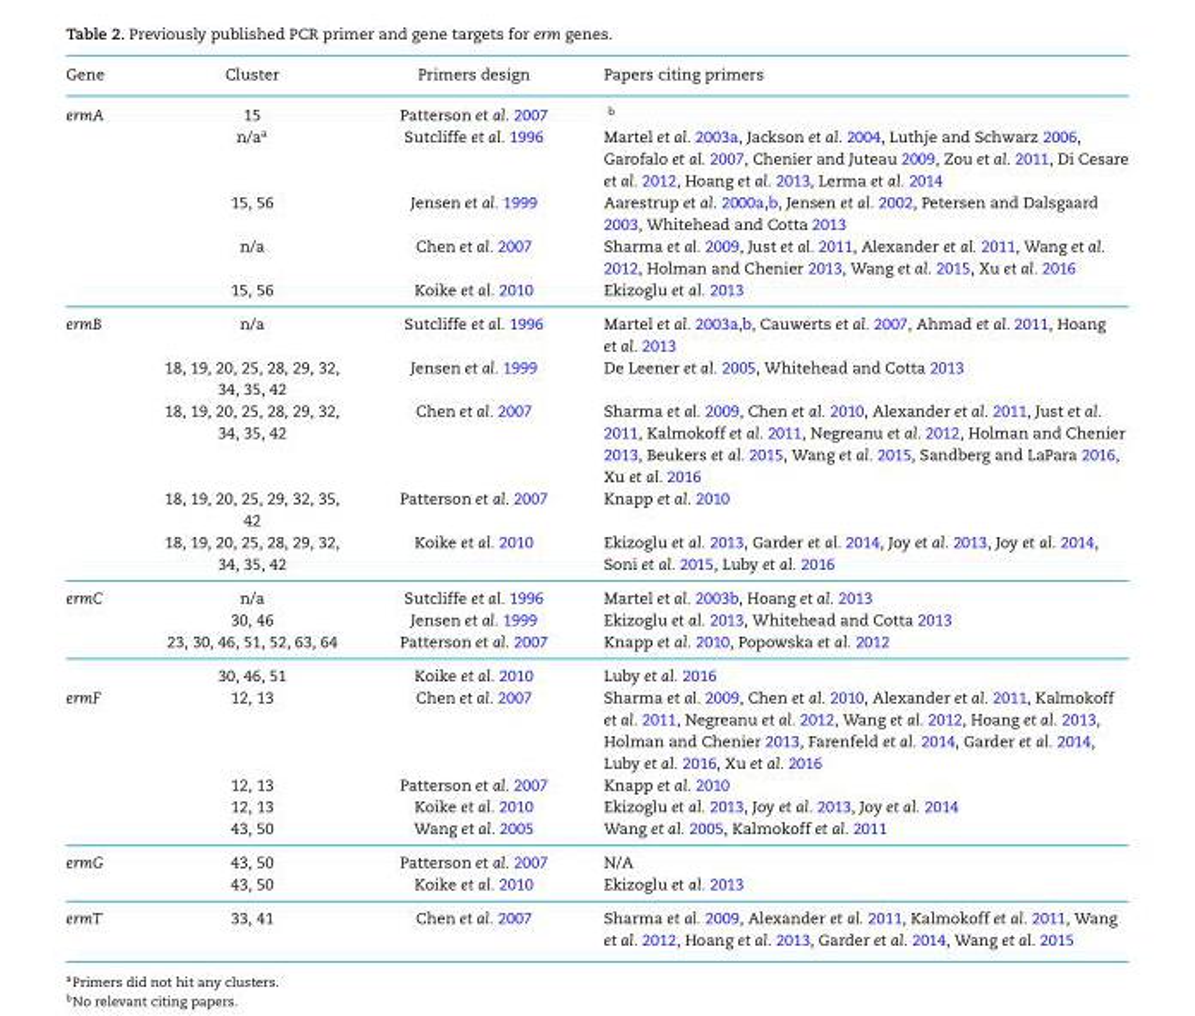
<table><thead><tr><td>Gene</td><td>Cluster</td><td>Primers design</td><td>Papers citing primers</td></tr></thead><tbody><tr><td rowspan="5">ermA</td><td>15</td><td>Patterson et al. <sup>2007</sup></td><td><sup>b</sup></td></tr><tr><td>n/a<sup>a</sup></td><td>Sutcliffe et al. <sup>1996</sup></td><td>Martel et al. 2003a, Jackson et al. <sup>2004</sup>, Luthje and Schwarz 2006, Garofalo et al. <sup>2007</sup>, Chenier and Juteau 2009, Zou et al. <sup>2011</sup>, Di Cesare et al. <sup>2012</sup>, Hoang et al. <sup>2013</sup>, Lerma et al. <sup>2014</sup></td></tr><tr><td>15, 56</td><td>Jensen et al. <sup>1999</sup></td><td>Aarestrup et al. 2000a,b, Jensen et al. <sup>2002</sup>, Petersen and Dalsgaard 2003, Whitehead and Cotta 2013</td></tr><tr><td>n/a</td><td>Chen et al. <sup>2007</sup></td><td>Sharma et al. <sup>2009</sup>, Just et al. <sup>2011</sup>, Alexander et al. <sup>2011</sup>, Wang et al. <sup>2012</sup>, Holman and Chenier 2013, Wang et al. <sup>2015</sup>, Xu et al. <sup>2016</sup></td></tr><tr><td>15, 56</td><td>Koike et al. <sup>2010</sup></td><td>Ekizoglu et al. <sup>2013</sup></td></tr><tr><td rowspan="5">ermB</td><td>n/a</td><td>Sutcliffe et al. <sup>1996</sup></td><td>Martel et al. 2003a,b, Cauwerts et al. <sup>2007</sup>, Ahmad et al. <sup>2011</sup>, Hoang et al. <sup>2013</sup></td></tr><tr><td>18, 19, 20, 25, 28, 29, 32, 34, 35, 42</td><td>Jensen et al. <sup>1999</sup></td><td>De Leener et al. <sup>2005</sup>, Whitehead and Cotta 2013</td></tr><tr><td>18, 19, 20, 25, 28, 29, 32, 34, 35, 42</td><td>Chen et al. <sup>2007</sup></td><td>Sharma et al. <sup>2009</sup>, Chen et al. <sup>2010</sup>, Alexander et al. <sup>2011</sup>, Just et al. <sup>2011</sup>, Kalmokoff et al. <sup>2011</sup>, Negreanu et al. <sup>2012</sup>, Holman and Chenier 2013, Beukers et al. <sup>2015</sup>, Wang et al. <sup>2015</sup>, Sandberg and LaPara 2016, Xu et al. <sup>2016</sup></td></tr><tr><td>18, 19, 20, 25, 29, 32, 35, 42</td><td>Patterson et al. <sup>2007</sup></td><td>Knapp et al. <sup>2010</sup></td></tr><tr><td>18, 19, 20, 25, 28, 29, 32, 34, 35, 42</td><td>Koike et al. <sup>2010</sup></td><td>Ekizoglu et al. <sup>2013</sup>, Garder et al. <sup>2014</sup>, Joy et al. <sup>2013</sup>, Joy et al. <sup>2014</sup>, Soni et al. <sup>2015</sup>, Luby et al. <sup>2016</sup></td></tr><tr><td rowspan="4">ermC</td><td>n/a</td><td>Sutcliffe et al. <sup>1996</sup></td><td>Martel et al. 2003b, Hoang et al. <sup>2013</sup></td></tr><tr><td>30, 46</td><td>Jensen et al. <sup>1999</sup></td><td>Ekizoglu et al. <sup>2013</sup>, Whitehead and Cotta 2013</td></tr><tr><td>23, 30, 46, 51, 52, 63, 64</td><td>Patterson et al. <sup>2007</sup></td><td>Knapp et al. <sup>2010</sup>, Popowska et al. <sup>2012</sup></td></tr><tr><td>30, 46, 51</td><td>Koike et al. <sup>2010</sup></td><td>Luby et al. <sup>2016</sup></td></tr><tr><td rowspan="4">ermF</td><td>12, 13</td><td>Chen et al. <sup>2007</sup></td><td>Sharma et al. <sup>2009</sup>, Chen et al. <sup>2010</sup>, Alexander et al. <sup>2011</sup>, Kalmokoff et al. <sup>2011</sup>, Negreanu et al. <sup>2012</sup>, Wang et al. <sup>2012</sup>, Hoang et al. <sup>2013</sup>, Holman and Chenier 2013, Farenfeld et al. <sup>2014</sup>, Garder et al. <sup>2014</sup>, Luby et al. <sup>2016</sup>, Xu et al. <sup>2016</sup></td></tr><tr><td>12, 13</td><td>Patterson et al. <sup>2007</sup></td><td>Knapp et al. <sup>2010</sup></td></tr><tr><td>12, 13</td><td>Koike et al. <sup>2010</sup></td><td>Ekizoglu et al. <sup>2013</sup>, Joy et al. <sup>2013</sup>, Joy et al. <sup>2014</sup></td></tr><tr><td>43, 50</td><td>Wang et al. <sup>2005</sup></td><td>Wang et al. <sup>2005</sup>, Kalmokoff et al. <sup>2011</sup></td></tr><tr><td rowspan="2">ermG</td><td>43, 50</td><td>Patterson et al. <sup>2007</sup></td><td>N/A</td></tr><tr><td>43, 50</td><td>Koike et al. <sup>2010</sup></td><td>Ekizoglu et al. <sup>2013</sup></td></tr><tr><td>ermT</td><td>33, 41</td><td>Chen et al. <sup>2007</sup></td><td>Sharma et al. <sup>2009</sup>, Alexander et al. <sup>2011</sup>, Kalmokoff et al. <sup>2011</sup>, Wang et al. <sup>2012</sup>, Hoang et al. <sup>2013</sup>, Garder et al. <sup>2014</sup>, Wang et al. <sup>2015</sup></td></tr></tbody></table>